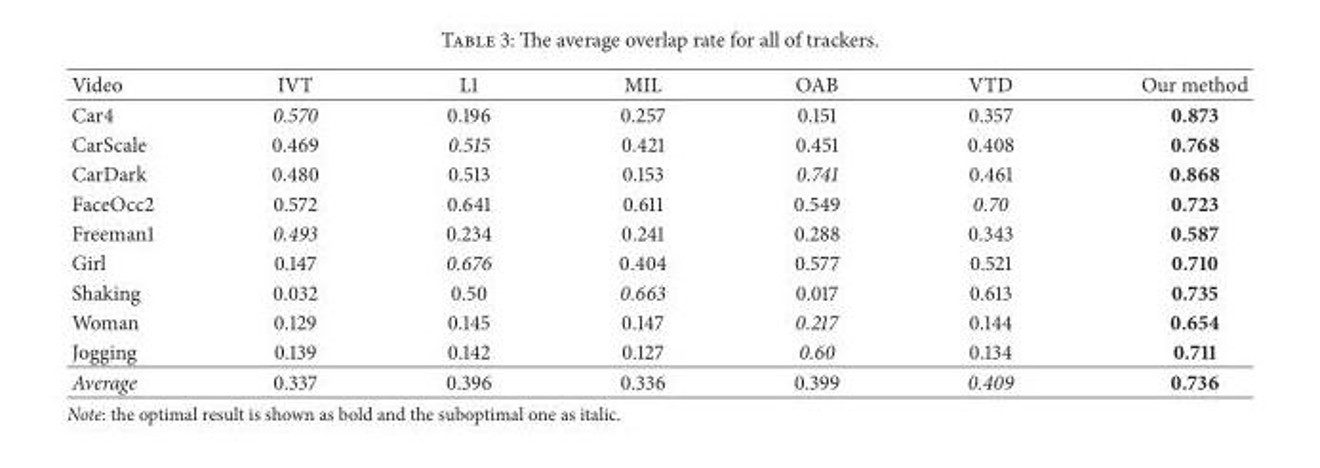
<table><thead><tr><td>Video</td><td>IVT</td><td>L1</td><td>MIL</td><td>OAB</td><td>VTD</td><td>Our method</td></tr></thead><tbody><tr><td>Car4</td><td>0.570</td><td>0.196</td><td>0.257</td><td>0.151</td><td>0.357</td><td>0.873</td></tr><tr><td>CarScale</td><td>0.469</td><td>0.515</td><td>0.421</td><td>0.451</td><td>0.408</td><td>0.768</td></tr><tr><td>CarDark</td><td>0.480</td><td>0.513</td><td>0.153</td><td>0.741</td><td>0.461</td><td>0.868</td></tr><tr><td>FaceOcc2</td><td>0.572</td><td>0.641</td><td>0.611</td><td>0.549</td><td>0.70</td><td>0.723</td></tr><tr><td>Freeman1</td><td>0.493</td><td>0.234</td><td>0.241</td><td>0.288</td><td>0.343</td><td>0.587</td></tr><tr><td>Girl</td><td>0.147</td><td>0.676</td><td>0.404</td><td>0.577</td><td>0.521</td><td>0.710</td></tr><tr><td>Shaking</td><td>0.032</td><td>0.50</td><td>0.663</td><td>0.017</td><td>0.613</td><td>0.735</td></tr><tr><td>Woman</td><td>0.129</td><td>0.145</td><td>0.147</td><td>0.217</td><td>0.144</td><td>0.654</td></tr><tr><td>Jogging</td><td>0.139</td><td>0.142</td><td>0.127</td><td>0.60</td><td>0.134</td><td>0.711</td></tr><tr><td>Average</td><td>0.337</td><td>0.396</td><td>0.336</td><td>0.399</td><td>0.409</td><td>0.736</td></tr></tbody></table>